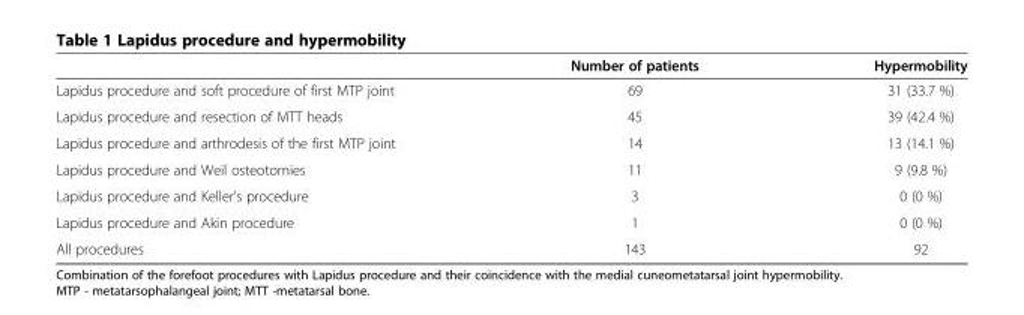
<table><thead><tr><td></td><td>Number of patients</td><td>Hypermobility</td></tr></thead><tbody><tr><td>Lapidus procedure and soft procedure of first MTP joint</td><td>69</td><td>31 (33.7 %)</td></tr><tr><td>Lapidus procedure and resection of MTT heads</td><td>45</td><td>39 (42.4 %)</td></tr><tr><td>Lapidus procedure and arthrodesis of the first MTP joint</td><td>14</td><td>13 (14.1 %)</td></tr><tr><td>Lapidus procedure and Weil osteotomies</td><td>11</td><td>9 (9.8 %)</td></tr><tr><td>Lapidus procedure and Keller&#x27;s procedure</td><td>3</td><td>0 (0 %)</td></tr><tr><td>Lapidus procedure and Akin procedure</td><td>1</td><td>0 (0 %)</td></tr><tr><td>All procedures</td><td>143</td><td>92</td></tr></tbody></table>